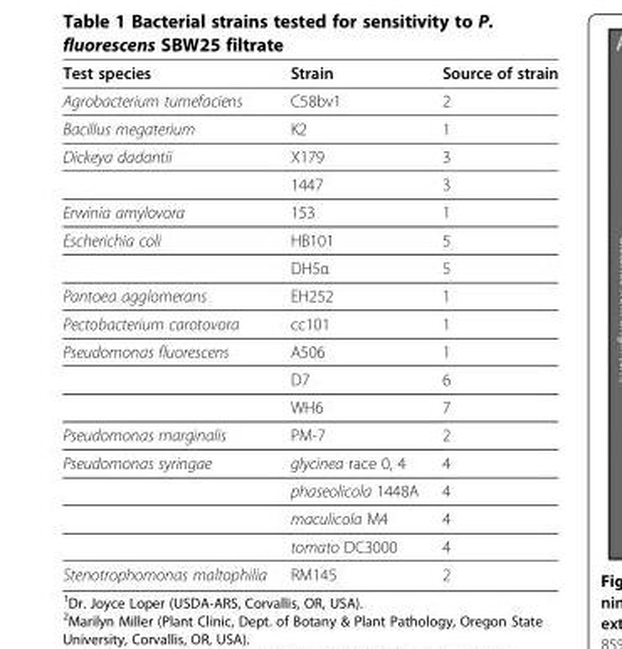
<table><thead><tr><td>Test species</td><td>Strain</td><td>Source of strain</td></tr></thead><tbody><tr><td>Agrobacterium tumefaciens</td><td>C58bv1</td><td>2</td></tr><tr><td>Bacillus megaterium</td><td>K2</td><td>1</td></tr><tr><td rowspan="2">Dickeya dadantii</td><td>X179</td><td>3</td></tr><tr><td>1447</td><td>3</td></tr><tr><td>Erwinia amylovora</td><td>153</td><td>1</td></tr><tr><td rowspan="2">Escherichia coli</td><td>HB101</td><td>5</td></tr><tr><td>DH5α</td><td>5</td></tr><tr><td>Pantoea agglomerans</td><td>EH252</td><td>1</td></tr><tr><td>Pectobacterium carotovora</td><td>cc101</td><td>1</td></tr><tr><td rowspan="3">Pseudomonas fluorescens</td><td>A506</td><td>1</td></tr><tr><td>D7</td><td>6</td></tr><tr><td>WH6</td><td>7</td></tr><tr><td>Pseudomonas marginalis</td><td>PM-7</td><td>2</td></tr><tr><td rowspan="4">Pseudomonas syringae</td><td>glycinea race 0, 4</td><td>4</td></tr><tr><td>phaseolicola 1448A</td><td>4</td></tr><tr><td>maculicola M4</td><td>4</td></tr><tr><td>tomato DC3000</td><td>4</td></tr><tr><td>Stenotrophomonas maltophilia</td><td>RM145</td><td>2</td></tr></tbody></table>